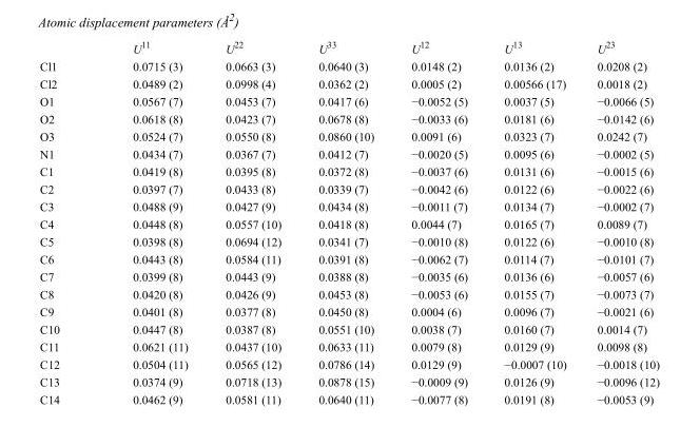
<table><thead><tr><td></td><td>U<sup>11</sup></td><td>U<sup>22</sup></td><td>U<sup>33</sup></td><td>U<sup>12</sup></td><td>U<sup>13</sup></td><td>U<sup>23</sup></td></tr></thead><tbody><tr><td>Cl1</td><td>0.0715 (3)</td><td>0.0663 (3)</td><td>0.0640 (3)</td><td>0.0148 (2)</td><td>0.0136 (2)</td><td>0.0208 (2)</td></tr><tr><td>Cl2</td><td>0.0489 (2)</td><td>0.0998 (4)</td><td>0.0362 (2)</td><td>0.0005 (2)</td><td>0.00566 (17)</td><td>0.0018 (2)</td></tr><tr><td>O1</td><td>0.0567 (7)</td><td>0.0453 (7)</td><td>0.0417 (6)</td><td>−0.0052 (5)</td><td>0.0037 (5)</td><td>−0.0066 (5)</td></tr><tr><td>O2</td><td>0.0618 (8)</td><td>0.0423 (7)</td><td>0.0678 (8)</td><td>−0.0033 (6)</td><td>0.0181 (6)</td><td>−0.0142 (6)</td></tr><tr><td>O3</td><td>0.0524 (7)</td><td>0.0550 (8)</td><td>0.0860 (10)</td><td>0.0091 (6)</td><td>0.0323 (7)</td><td>0.0242 (7)</td></tr><tr><td>N1</td><td>0.0434 (7)</td><td>0.0367 (7)</td><td>0.0412 (7)</td><td>−0.0020 (5)</td><td>0.0095 (6)</td><td>−0.0002 (5)</td></tr><tr><td>C1</td><td>0.0419 (8)</td><td>0.0395 (8)</td><td>0.0372 (8)</td><td>−0.0037 (6)</td><td>0.0131 (6)</td><td>−0.0015 (6)</td></tr><tr><td>C2</td><td>0.0397 (7)</td><td>0.0433 (8)</td><td>0.0339 (7)</td><td>−0.0042 (6)</td><td>0.0122 (6)</td><td>−0.0022 (6)</td></tr><tr><td>C3</td><td>0.0488 (9)</td><td>0.0427 (9)</td><td>0.0434 (8)</td><td>−0.0011 (7)</td><td>0.0134 (7)</td><td>−0.0002 (7)</td></tr><tr><td>C4</td><td>0.0448 (8)</td><td>0.0557 (10)</td><td>0.0418 (8)</td><td>0.0044 (7)</td><td>0.0165 (7)</td><td>0.0089 (7)</td></tr><tr><td>C5</td><td>0.0398 (8)</td><td>0.0694 (12)</td><td>0.0341 (7)</td><td>−0.0010 (8)</td><td>0.0122 (6)</td><td>−0.0010 (8)</td></tr><tr><td>C6</td><td>0.0443 (8)</td><td>0.0584 (11)</td><td>0.0391 (8)</td><td>−0.0062 (7)</td><td>0.0114 (7)</td><td>−0.0101 (7)</td></tr><tr><td>C7</td><td>0.0399 (8)</td><td>0.0443 (9)</td><td>0.0388 (8)</td><td>−0.0035 (6)</td><td>0.0136 (6)</td><td>−0.0057 (6)</td></tr><tr><td>C8</td><td>0.0420 (8)</td><td>0.0426 (9)</td><td>0.0453 (8)</td><td>−0.0053 (6)</td><td>0.0155 (7)</td><td>−0.0073 (7)</td></tr><tr><td>C9</td><td>0.0401 (8)</td><td>0.0377 (8)</td><td>0.0450 (8)</td><td>0.0004 (6)</td><td>0.0096 (7)</td><td>−0.0021 (6)</td></tr><tr><td>C10</td><td>0.0447 (8)</td><td>0.0387 (8)</td><td>0.0551 (10)</td><td>0.0038 (7)</td><td>0.0160 (7)</td><td>0.0014 (7)</td></tr><tr><td>C11</td><td>0.0621 (11)</td><td>0.0437 (10)</td><td>0.0633 (11)</td><td>0.0079 (8)</td><td>0.0129 (9)</td><td>0.0098 (8)</td></tr><tr><td>C12</td><td>0.0504 (11)</td><td>0.0565 (12)</td><td>0.0786 (14)</td><td>0.0129 (9)</td><td>−0.0007 (10)</td><td>−0.0018 (10)</td></tr><tr><td>C13</td><td>0.0374 (9)</td><td>0.0718 (13)</td><td>0.0878 (15)</td><td>−0.0009 (9)</td><td>0.0126 (9)</td><td>−0.0096 (12)</td></tr><tr><td>C14</td><td>0.0462 (9)</td><td>0.0581 (11)</td><td>0.0640 (11)</td><td>−0.0077 (8)</td><td>0.0191 (8)</td><td>−0.0053 (9)</td></tr></tbody></table>